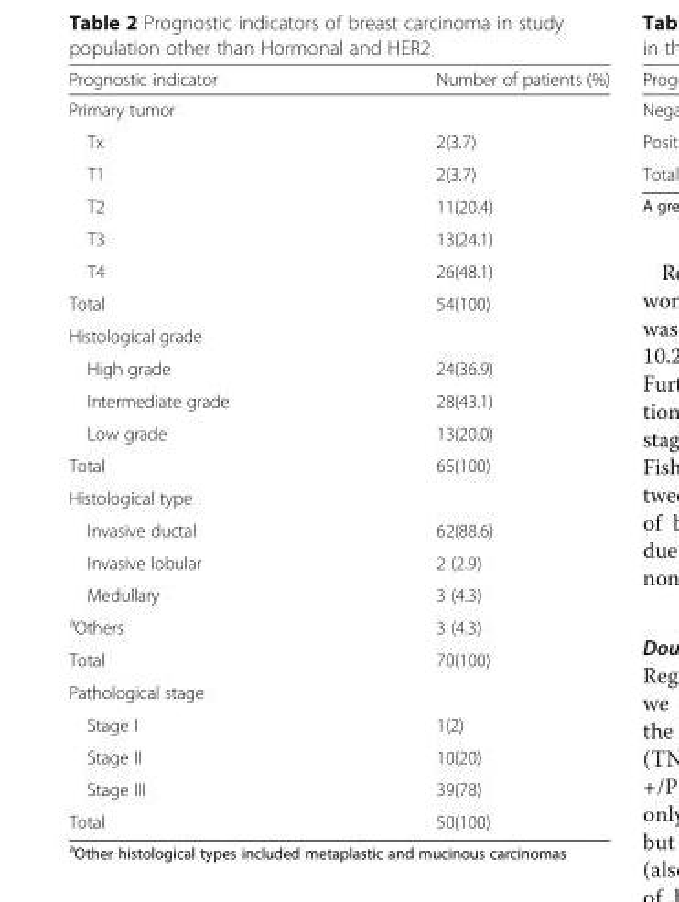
<table><thead><tr><td>Prognostic indicator</td><td>Number of patients (%)</td></tr></thead><tbody><tr><td colspan="2">Primary tumor</td></tr><tr><td>Tx</td><td>2(3.7)</td></tr><tr><td>T1</td><td>2(3.7)</td></tr><tr><td>T2</td><td>11(20.4)</td></tr><tr><td>T3</td><td>13(24.1)</td></tr><tr><td>T4</td><td>26(48.1)</td></tr><tr><td>Total</td><td>54(100)</td></tr><tr><td colspan="2">Histological grade</td></tr><tr><td>High grade</td><td>24(36.9)</td></tr><tr><td>Intermediate grade</td><td>28(43.1)</td></tr><tr><td>Low grade</td><td>13(20.0)</td></tr><tr><td>Total</td><td>65(100)</td></tr><tr><td colspan="2">Histological type</td></tr><tr><td>Invasive ductal</td><td>62(88.6)</td></tr><tr><td>Invasive lobular</td><td>2 (2.9)</td></tr><tr><td>Medullary</td><td>3 (4.3)</td></tr><tr><td><sup>a</sup>Others</td><td>3 (4.3)</td></tr><tr><td>Total</td><td>70(100)</td></tr><tr><td colspan="2">Pathological stage</td></tr><tr><td>Stage I</td><td>1(2)</td></tr><tr><td>Stage II</td><td>10(20)</td></tr><tr><td>Stage III</td><td>39(78)</td></tr><tr><td>Total</td><td>50(100)</td></tr></tbody></table>